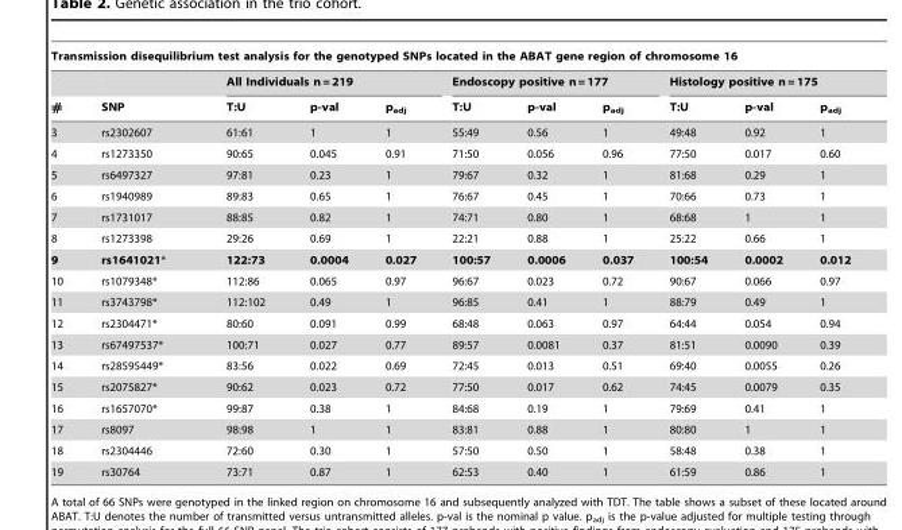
<table><thead><tr><td colspan="11">Transmission disequilibrium test analysis for the genotyped SNPs located in the ABAT gene region of chromosome 16</td></tr><tr><td rowspan="2">#</td><td rowspan="2">SNP</td><td colspan="3">All Individuals n = 219</td><td colspan="3">Endoscopy positive n = 177</td><td colspan="3">Histology positive n = 175</td></tr><tr><td>T:U</td><td>p-val</td><td>p<sub>adj</sub></td><td>T:U</td><td>p-val</td><td>p<sub>adj</sub></td><td>T:U</td><td>p-val</td><td>p<sub>adj</sub></td></tr></thead><tbody><tr><td>3</td><td>rs2302607</td><td>61:61</td><td>1</td><td>1</td><td>55:49</td><td>0.56</td><td>1</td><td>49:48</td><td>0.92</td><td>1</td></tr><tr><td>4</td><td>rs1273350</td><td>90:65</td><td>0.045</td><td>0.91</td><td>71:50</td><td>0.056</td><td>0.96</td><td>77:50</td><td>0.017</td><td>0.60</td></tr><tr><td>5</td><td>rs6497327</td><td>97:81</td><td>0.23</td><td>1</td><td>79:67</td><td>0.32</td><td>1</td><td>81:68</td><td>0.29</td><td>1</td></tr><tr><td>6</td><td>rs1940989</td><td>89:83</td><td>0.65</td><td>1</td><td>76:67</td><td>0.45</td><td>1</td><td>70:66</td><td>0.73</td><td>1</td></tr><tr><td>7</td><td>rs1731017</td><td>88:85</td><td>0.82</td><td>1</td><td>74:71</td><td>0.80</td><td>1</td><td>68:68</td><td>1</td><td>1</td></tr><tr><td>8</td><td>rs1273398</td><td>29:26</td><td>0.69</td><td>1</td><td>22:21</td><td>0.88</td><td>1</td><td>25:22</td><td>0.66</td><td>1</td></tr><tr><td>9</td><td>rs1641021*</td><td>122:73</td><td>0.0004</td><td>0.027</td><td>100:57</td><td>0.0006</td><td>0.037</td><td>100:54</td><td>0.0002</td><td>0.012</td></tr><tr><td>10</td><td>rs1079348*</td><td>112:86</td><td>0.065</td><td>0.97</td><td>96:67</td><td>0.023</td><td>0.72</td><td>90:67</td><td>0.066</td><td>0.97</td></tr><tr><td>11</td><td>rs3743798*</td><td>112:102</td><td>0.49</td><td>1</td><td>96:85</td><td>0.41</td><td>1</td><td>88:79</td><td>0.49</td><td>1</td></tr><tr><td>12</td><td>rs2304471*</td><td>80:60</td><td>0.091</td><td>0.99</td><td>68:48</td><td>0.063</td><td>0.97</td><td>64:44</td><td>0.054</td><td>0.94</td></tr><tr><td>13</td><td>rs67497537*</td><td>100:71</td><td>0.027</td><td>0.77</td><td>89:57</td><td>0.0081</td><td>0.37</td><td>81:51</td><td>0.0090</td><td>0.39</td></tr><tr><td>14</td><td>rs28595449*</td><td>83:56</td><td>0.022</td><td>0.69</td><td>72:45</td><td>0.013</td><td>0.51</td><td>69:40</td><td>0.0055</td><td>0.26</td></tr><tr><td>15</td><td>rs2075827*</td><td>90:62</td><td>0.023</td><td>0.72</td><td>77:50</td><td>0.017</td><td>0.62</td><td>74:45</td><td>0.0079</td><td>0.35</td></tr><tr><td>16</td><td>rs1657070*</td><td>99:87</td><td>0.38</td><td>1</td><td>84:68</td><td>0.19</td><td>1</td><td>79:69</td><td>0.41</td><td>1</td></tr><tr><td>17</td><td>rs8097</td><td>98:98</td><td>1</td><td>1</td><td>83:81</td><td>0.88</td><td>1</td><td>80:80</td><td>1</td><td>1</td></tr><tr><td>18</td><td>rs2304446</td><td>72:60</td><td>0.30</td><td>1</td><td>57:50</td><td>0.50</td><td>1</td><td>58:48</td><td>0.38</td><td>1</td></tr><tr><td>19</td><td>rs30764</td><td>73:71</td><td>0.87</td><td>1</td><td>62:53</td><td>0.40</td><td>1</td><td>61:59</td><td>0.86</td><td>1</td></tr></tbody></table>